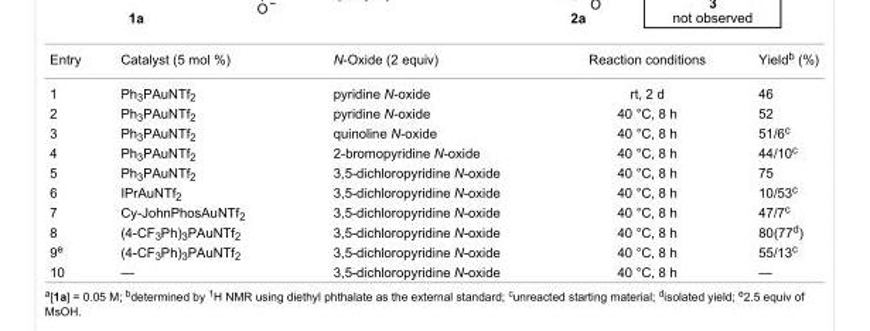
<table><tbody><tr><td>Entry</td><td>Catalyst (5 mol %)</td><td>N-Oxide (2 equiv)</td><td>Reaction conditions</td><td>Yield<sup>b</sup> (%)</td></tr><tr><td>1</td><td>Ph<sub>3</sub>PAuNTf<sub>2</sub></td><td>pyridine N-oxide</td><td>rt, 2 d</td><td>46</td></tr><tr><td>2</td><td>Ph<sub>3</sub>PAuNTf<sub>2</sub></td><td>pyridine N-oxide</td><td>40 °C, 8 h</td><td>52</td></tr><tr><td>3</td><td>Ph<sub>3</sub>PAuNTf<sub>2</sub></td><td>quinoline N-oxide</td><td>40 °C, 8 h</td><td>51/6<sup>c</sup></td></tr><tr><td>4</td><td>Ph<sub>3</sub>PAuNTf<sub>2</sub></td><td>2-bromopyridine N-oxide</td><td>40 °C, 8 h</td><td>44/10<sup>c</sup></td></tr><tr><td>5</td><td>Ph<sub>3</sub>PAuNTf<sub>2</sub></td><td>3,5-dichloropyridine N-oxide</td><td>40 °C, 8 h</td><td>75</td></tr><tr><td>6</td><td>IPrAuNTf<sub>2</sub></td><td>3,5-dichloropyridine N-oxide</td><td>40 °C, 8 h</td><td>10/53<sup>c</sup></td></tr><tr><td>7</td><td>Cy-JohnPhosAuNTf<sub>2</sub></td><td>3,5-dichloropyridine N-oxide</td><td>40 °C, 8 h</td><td>47/7<sup>c</sup></td></tr><tr><td>8</td><td>(4-CF<sub>3</sub>Ph)<sub>3</sub>PAuNTf<sub>2</sub></td><td>3,5-dichloropyridine N-oxide</td><td>40 °C, 8 h</td><td>80(77<sup>d</sup>)</td></tr><tr><td>9<sup>e</sup></td><td>(4-CF<sub>3</sub>Ph)<sub>3</sub>PAuNTf<sub>2</sub></td><td>3,5-dichloropyridine N-oxide</td><td>40 °C, 8 h</td><td>55/13<sup>c</sup></td></tr><tr><td>10</td><td>—</td><td>3,5-dichloropyridine N-oxide</td><td>40 °C, 8 h</td><td>—</td></tr></tbody></table>